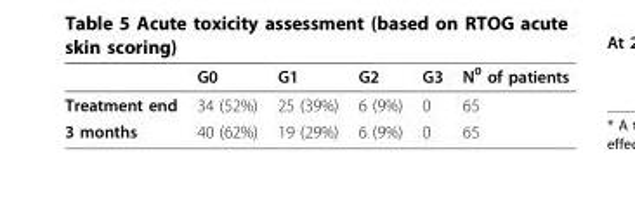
<table><thead><tr><td></td><td>G0</td><td>G1</td><td>G2</td><td>G3</td><td>N<sup>0</sup> of patients</td></tr></thead><tbody><tr><td>Treatment end</td><td>34 (52%)</td><td>25 (39%)</td><td>6 (9%)</td><td>0</td><td>65</td></tr><tr><td>3 months</td><td>40 (62%)</td><td>19 (29%)</td><td>6 (9%)</td><td>0</td><td>65</td></tr></tbody></table>